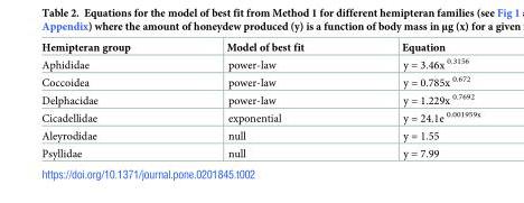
<table><thead><tr><td>Hemipteran group</td><td>Model of best fit</td><td>Equation</td></tr></thead><tbody><tr><td>Aphididae</td><td>power-law</td><td>y = 3.46x <sup>0.3156</sup></td></tr><tr><td>Coccoidea</td><td>power-law</td><td>y = 0.785x <sup>0.672</sup></td></tr><tr><td>Delphacidae</td><td>power-law</td><td>y = 1.229x <sup>0.7692</sup></td></tr><tr><td>Cicadellidae</td><td>exponential</td><td>y = 24.1e <sup>0.001959x</sup></td></tr><tr><td>Aleyrodidae</td><td>null</td><td>y = 1.55</td></tr><tr><td>Psyllidae</td><td>null</td><td>y = 7.99</td></tr></tbody></table>